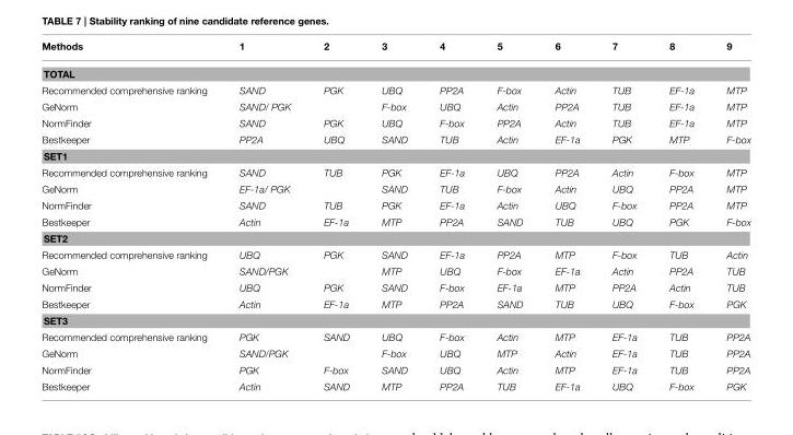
<table><thead><tr><td>Methods</td><td>1</td><td>2</td><td>3</td><td>4</td><td>5</td><td>6</td><td>7</td><td>8</td><td>9</td></tr></thead><tbody><tr><td colspan="10">TOTAL</td></tr><tr><td>Recommended comprehensive ranking</td><td>SAND</td><td>PGK</td><td>UBQ</td><td>PP2A</td><td>F-box</td><td>Actin</td><td>TUB</td><td>EF-1a</td><td>MTP</td></tr><tr><td>GeNorm</td><td>SAND/ PGK</td><td></td><td>F-box</td><td>UBQ</td><td>Actin</td><td>PP2A</td><td>TUB</td><td>EF-1a</td><td>MTP</td></tr><tr><td>NormFinder</td><td>SAND</td><td>PGK</td><td>UBQ</td><td>F-box</td><td>PP2A</td><td>Actin</td><td>TUB</td><td>EF-1a</td><td>MTP</td></tr><tr><td>Bestkeeper</td><td>PP2A</td><td>UBQ</td><td>SAND</td><td>TUB</td><td>Actin</td><td>EF-1a</td><td>PGK</td><td>MTP</td><td>F-box</td></tr><tr><td colspan="10">SET1</td></tr><tr><td>Recommended comprehensive ranking</td><td>SAND</td><td>TUB</td><td>PGK</td><td>EF-1a</td><td>UBQ</td><td>PP2A</td><td>Actin</td><td>F-box</td><td>MTP</td></tr><tr><td>GeNorm</td><td>EF-1a/ PGK</td><td></td><td>SAND</td><td>TUB</td><td>F-box</td><td>Actin</td><td>UBQ</td><td>PP2A</td><td>MTP</td></tr><tr><td>NormFinder</td><td>SAND</td><td>TUB</td><td>PGK</td><td>EF-1a</td><td>Actin</td><td>UBQ</td><td>F-box</td><td>PP2A</td><td>MTP</td></tr><tr><td>Bestkeeper</td><td>Actin</td><td>EF-1a</td><td>MTP</td><td>PP2A</td><td>SAND</td><td>TUB</td><td>UBQ</td><td>PGK</td><td>F-box</td></tr><tr><td colspan="10">SET2</td></tr><tr><td>Recommended comprehensive ranking</td><td>UBQ</td><td>PGK</td><td>SAND</td><td>EF-1a</td><td>PP2A</td><td>MTP</td><td>F-box</td><td>TUB</td><td>Actin</td></tr><tr><td>GeNorm</td><td>SAND/PGK</td><td></td><td>MTP</td><td>UBQ</td><td>F-box</td><td>EF-1a</td><td>Actin</td><td>PP2A</td><td>TUB</td></tr><tr><td>NormFinder</td><td>UBQ</td><td>PGK</td><td>SAND</td><td>F-box</td><td>EF-1a</td><td>MTP</td><td>PP2A</td><td>Actin</td><td>TUB</td></tr><tr><td>Bestkeeper</td><td>Actin</td><td>EF-1a</td><td>MTP</td><td>PP2A</td><td>SAND</td><td>TUB</td><td>UBQ</td><td>F-box</td><td>PGK</td></tr><tr><td colspan="10">SET3</td></tr><tr><td>Recommended comprehensive ranking</td><td>PGK</td><td>SAND</td><td>UBQ</td><td>F-box</td><td>Actin</td><td>MTP</td><td>EF-1a</td><td>TUB</td><td>PP2A</td></tr><tr><td>GeNorm</td><td>SAND/PGK</td><td></td><td>F-box</td><td>UBQ</td><td>MTP</td><td>Actin</td><td>EF-1a</td><td>TUB</td><td>PP2A</td></tr><tr><td>NormFinder</td><td>PGK</td><td>F-box</td><td>SAND</td><td>UBQ</td><td>Actin</td><td>MTP</td><td>EF-1a</td><td>TUB</td><td>PP2A</td></tr><tr><td>Bestkeeper</td><td>Actin</td><td>SAND</td><td>MTP</td><td>PP2A</td><td>TUB</td><td>EF-1a</td><td>UBQ</td><td>F-box</td><td>PGK</td></tr></tbody></table>